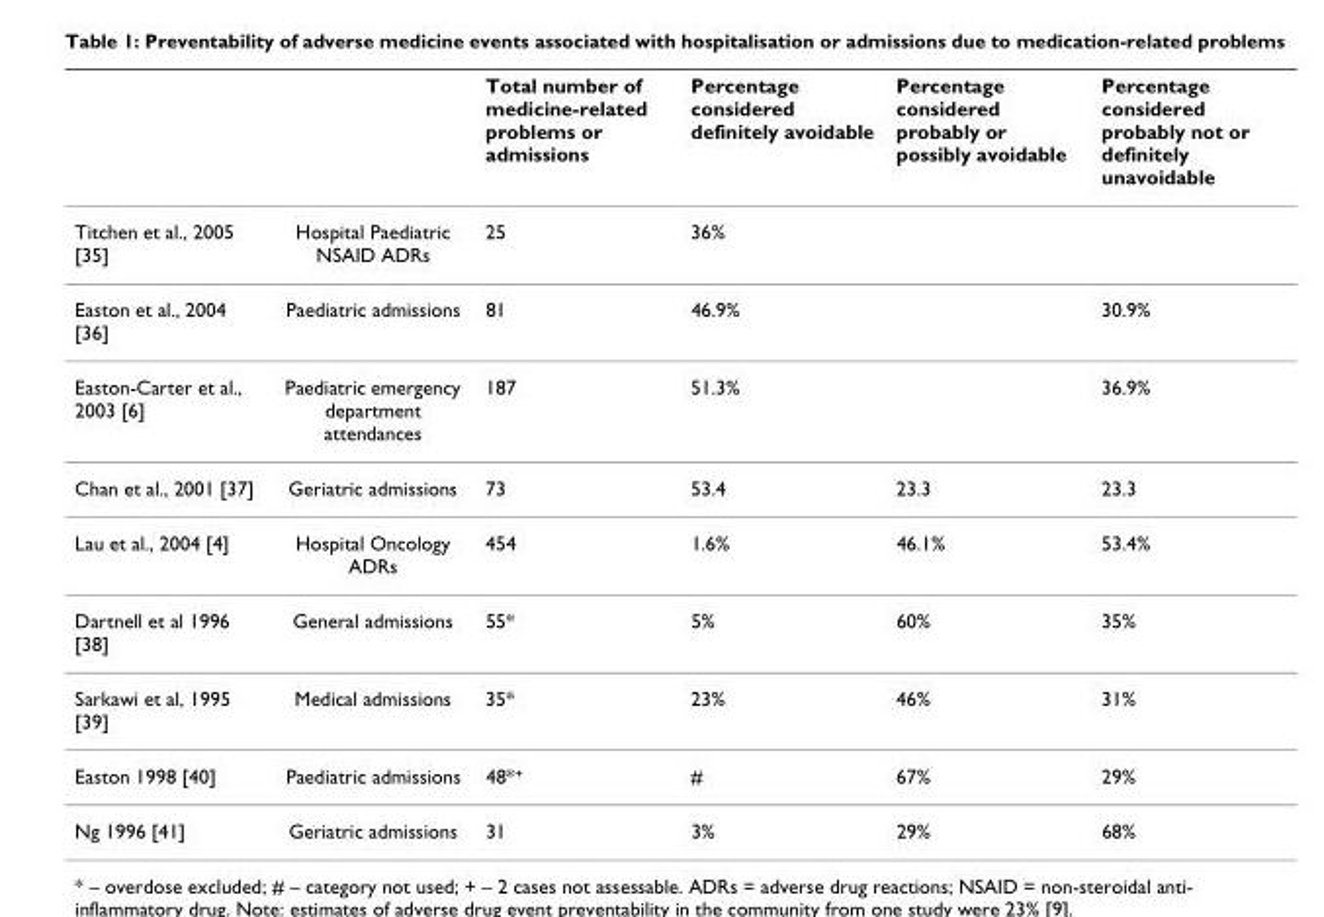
<table><thead><tr><td></td><td></td><td>Total number of medicine-related problems or admissions</td><td>Percentage considered definitely avoidable</td><td>Percentage considered probably or possibly avoidable</td><td>Percentage considered probably not or definitely unavoidable</td></tr></thead><tbody><tr><td>Titchen et al., 2005 [35]</td><td>Hospital Paediatric NSAID ADRs</td><td>25</td><td>36%</td><td></td><td></td></tr><tr><td>Easton et al., 2004 [36]</td><td>Paediatric admissions</td><td>81</td><td>46.9%</td><td></td><td>30.9%</td></tr><tr><td>Easton-Carter et al., 2003 [6]</td><td>Paediatric emergency department attendances</td><td>187</td><td>51.3%</td><td></td><td>36.9%</td></tr><tr><td>Chan et al., 2001 [37]</td><td>Geriatric admissions</td><td>73</td><td>53.4</td><td>23.3</td><td>23.3</td></tr><tr><td>Lau et al., 2004 [4]</td><td>Hospital Oncology ADRs</td><td>454</td><td>1.6%</td><td>46.1%</td><td>53.4%</td></tr><tr><td>Dartnell et al 1996 [38]</td><td>General admissions</td><td>55*</td><td>5%</td><td>60%</td><td>35%</td></tr><tr><td>Sarkawi et al, 1995 [39]</td><td>Medical admissions</td><td>35*</td><td>23%</td><td>46%</td><td>31%</td></tr><tr><td>Easton 1998 [40]</td><td>Paediatric admissions</td><td>48*<sup>+</sup></td><td>#</td><td>67%</td><td>29%</td></tr><tr><td>Ng 1996 [41]</td><td>Geriatric admissions</td><td>31</td><td>3%</td><td>29%</td><td>68%</td></tr></tbody></table>